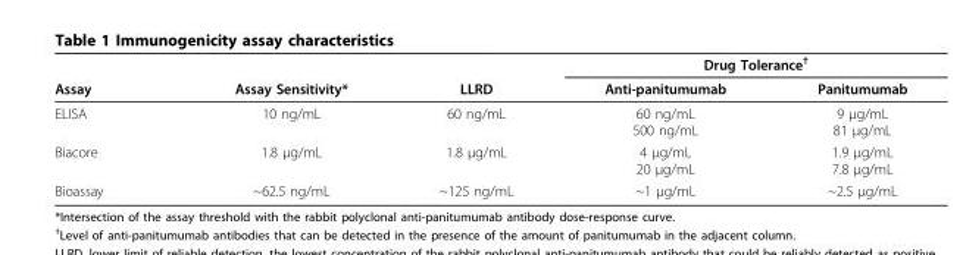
<table><thead><tr><td rowspan="2">Assay</td><td rowspan="2">Assay Sensitivity*</td><td rowspan="2">LLRD</td><td colspan="2">Drug Tolerance<sup>†</sup></td></tr><tr><td>Anti-panitumumab</td><td>Panitumumab</td></tr></thead><tbody><tr><td>ELISA</td><td>10 ng/mL</td><td>60 ng/mL</td><td>60 ng/mL 500 ng/mL</td><td>9 μg/mL 81 μg/mL</td></tr><tr><td>Biacore</td><td>1.8 μg/mL</td><td>1.8 μg/mL</td><td>4 μg/mL 20 μg/mL</td><td>1.9 μg/mL 7.8 μg/mL</td></tr><tr><td>Bioassay</td><td>~62.5 ng/mL</td><td>~125 ng/mL</td><td>~1 μg/mL</td><td>~2.5 μg/mL</td></tr></tbody></table>